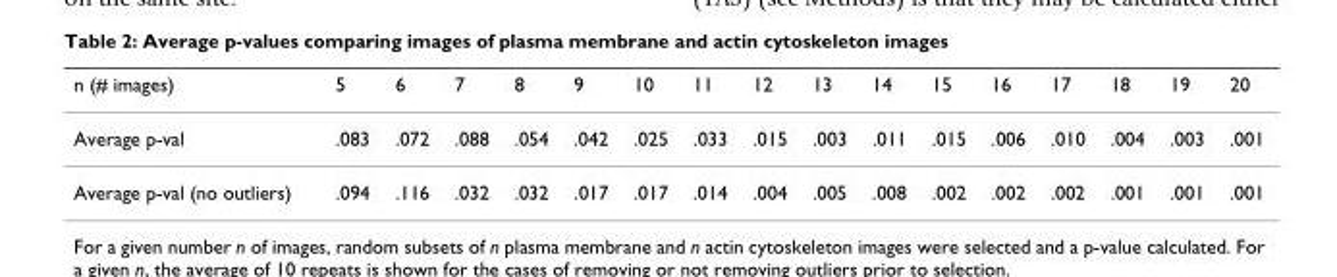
<table><thead><tr><td>n (# images)</td><td>5</td><td>6</td><td>7</td><td>8</td><td>9</td><td>10</td><td>11</td><td>12</td><td>13</td><td>14</td><td>15</td><td>16</td><td>17</td><td>18</td><td>19</td><td>20</td></tr></thead><tbody><tr><td>Average p-val</td><td>.083</td><td>.072</td><td>.088</td><td>.054</td><td>.042</td><td>.025</td><td>.033</td><td>.015</td><td>.003</td><td>.011</td><td>.015</td><td>.006</td><td>.010</td><td>.004</td><td>.003</td><td>.001</td></tr><tr><td>Average p-val (no outliers)</td><td>.094</td><td>.116</td><td>.032</td><td>.032</td><td>.017</td><td>.017</td><td>.014</td><td>.004</td><td>.005</td><td>.008</td><td>.002</td><td>.002</td><td>.002</td><td>.001</td><td>.001</td><td>.001</td></tr></tbody></table>